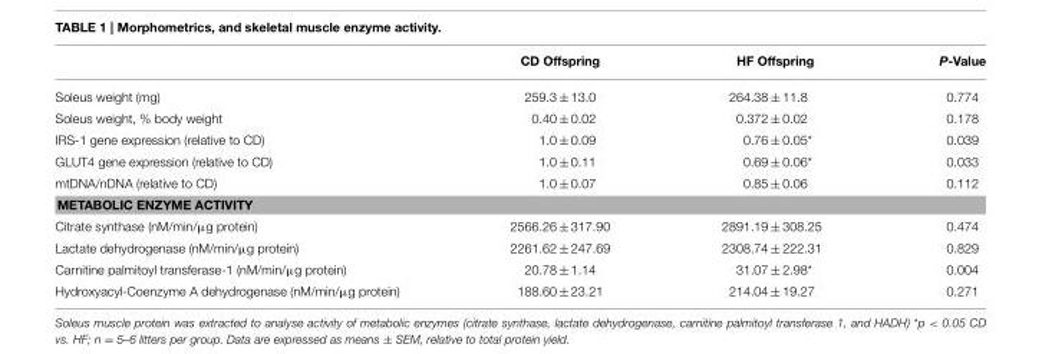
<table><thead><tr><td></td><td>CD Offspring</td><td>HF Offspring</td><td>P-Value</td></tr></thead><tbody><tr><td>Soleus weight (mg)</td><td>259.3 ± 13.0</td><td>264.38 ± 11.8</td><td>0.774</td></tr><tr><td>Soleus weight, % body weight</td><td>0.40 ± 0.02</td><td>0.372 ± 0.02</td><td>0.178</td></tr><tr><td>IRS-1 gene expression (relative to CD)</td><td>1.0 ± 0.09</td><td>0.76 ± 0.05*</td><td>0.039</td></tr><tr><td>GLUT4 gene expression (relative to CD)</td><td>1.0 ± 0.11</td><td>0.69 ± 0.06*</td><td>0.033</td></tr><tr><td>mtDNA/nDNA (relative to CD)</td><td>1.0 ± 0.07</td><td>0.85 ± 0.06</td><td>0.112</td></tr><tr><td colspan="4">METABOLIC ENZYME ACTIVITY</td></tr><tr><td>Citrate synthase (nM/min/µg protein)</td><td>2566.26 ± 317.90</td><td>2891.19 ± 308.25</td><td>0.474</td></tr><tr><td>Lactate dehydrogenase (nM/min/µg protein)</td><td>2261.62 ± 247.69</td><td>2308.74 ± 222.31</td><td>0.829</td></tr><tr><td>Carnitine palmitoyl transferase-1 (nM/min/µg protein)</td><td>20.78 ± 1.14</td><td>31.07 ± 2.98*</td><td>0.004</td></tr><tr><td>Hydroxyacyl-Coenzyme A dehydrogenase (nM/min/µg protein)</td><td>188.60 ± 23.21</td><td>214.04 ± 19.27</td><td>0.271</td></tr></tbody></table>